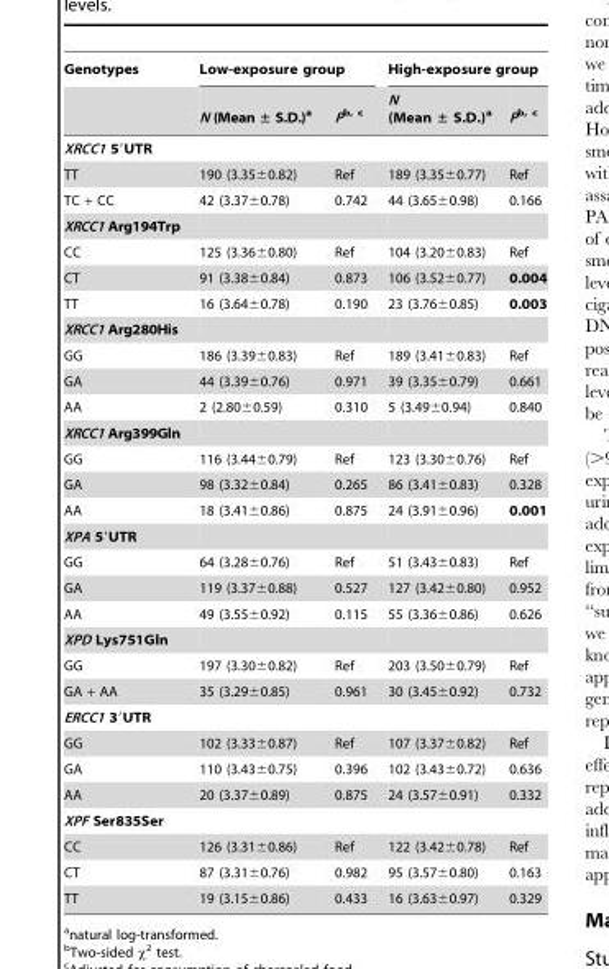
<table><thead><tr><td rowspan="2">Genotypes</td><td colspan="2">Low-exposure group</td><td colspan="2">High-exposure group</td></tr><tr><td>N (Mean ± S.D.)<sup>a</sup></td><td>Pb<sup>,</sup> c</td><td>N (Mean ± S.D.)<sup>a</sup></td><td>Pb<sup>,</sup> c</td></tr></thead><tbody><tr><td colspan="5">XRCC1 5′UTR</td></tr><tr><td>TT</td><td>190 (3.35±0.82)</td><td>Ref</td><td>189 (3.35±0.77)</td><td>Ref</td></tr><tr><td>TC + CC</td><td>42 (3.37±0.78)</td><td>0.742</td><td>44 (3.65±0.98)</td><td>0.166</td></tr><tr><td colspan="5">XRCC1 Arg194Trp</td></tr><tr><td>CC</td><td>125 (3.36±0.80)</td><td>Ref</td><td>104 (3.20±0.83)</td><td>Ref</td></tr><tr><td>CT</td><td>91 (3.38±0.84)</td><td>0.873</td><td>106 (3.52±0.77)</td><td>0.004</td></tr><tr><td>TT</td><td>16 (3.64±0.78)</td><td>0.190</td><td>23 (3.76±0.85)</td><td>0.003</td></tr><tr><td colspan="5">XRCC1 Arg280His</td></tr><tr><td>GG</td><td>186 (3.39±0.83)</td><td>Ref</td><td>189 (3.41±0.83)</td><td>Ref</td></tr><tr><td>GA</td><td>44 (3.39±0.76)</td><td>0.971</td><td>39 (3.35±0.79)</td><td>0.661</td></tr><tr><td>AA</td><td>2 (2.80±0.59)</td><td>0.310</td><td>5 (3.49±0.94)</td><td>0.840</td></tr><tr><td colspan="5">XRCC1 Arg399Gln</td></tr><tr><td>GG</td><td>116 (3.44±0.79)</td><td>Ref</td><td>123 (3.30±0.76)</td><td>Ref</td></tr><tr><td>GA</td><td>98 (3.32±0.84)</td><td>0.265</td><td>86 (3.41±0.83)</td><td>0.328</td></tr><tr><td>AA</td><td>18 (3.41±0.86)</td><td>0.875</td><td>24 (3.91±0.96)</td><td>0.001</td></tr><tr><td colspan="5">XPA 5′UTR</td></tr><tr><td>GG</td><td>64 (3.28±0.76)</td><td>Ref</td><td>51 (3.43±0.83)</td><td>Ref</td></tr><tr><td>GA</td><td>119 (3.37±0.88)</td><td>0.527</td><td>127 (3.42±0.80)</td><td>0.952</td></tr><tr><td>AA</td><td>49 (3.55±0.92)</td><td>0.115</td><td>55 (3.36±0.86)</td><td>0.626</td></tr><tr><td colspan="5">XPD Lys751Gln</td></tr><tr><td>GG</td><td>197 (3.30±0.82)</td><td>Ref</td><td>203 (3.50±0.79)</td><td>Ref</td></tr><tr><td>GA + AA</td><td>35 (3.29±0.85)</td><td>0.961</td><td>30 (3.45±0.92)</td><td>0.732</td></tr><tr><td colspan="5">ERCC1 3′UTR</td></tr><tr><td>GG</td><td>102 (3.33±0.87)</td><td>Ref</td><td>107 (3.37±0.82)</td><td>Ref</td></tr><tr><td>GA</td><td>110 (3.43±0.75)</td><td>0.396</td><td>102 (3.43±0.72)</td><td>0.636</td></tr><tr><td>AA</td><td>20 (3.37±0.89)</td><td>0.875</td><td>24 (3.57±0.91)</td><td>0.332</td></tr><tr><td colspan="5">XPF Ser835Ser</td></tr><tr><td>CC</td><td>126 (3.31±0.86)</td><td>Ref</td><td>122 (3.42±0.78)</td><td>Ref</td></tr><tr><td>CT</td><td>87 (3.31±0.76)</td><td>0.982</td><td>95 (3.57±0.80)</td><td>0.163</td></tr><tr><td>TT</td><td>19 (3.15±0.86)</td><td>0.433</td><td>16 (3.63±0.97)</td><td>0.329</td></tr></tbody></table>